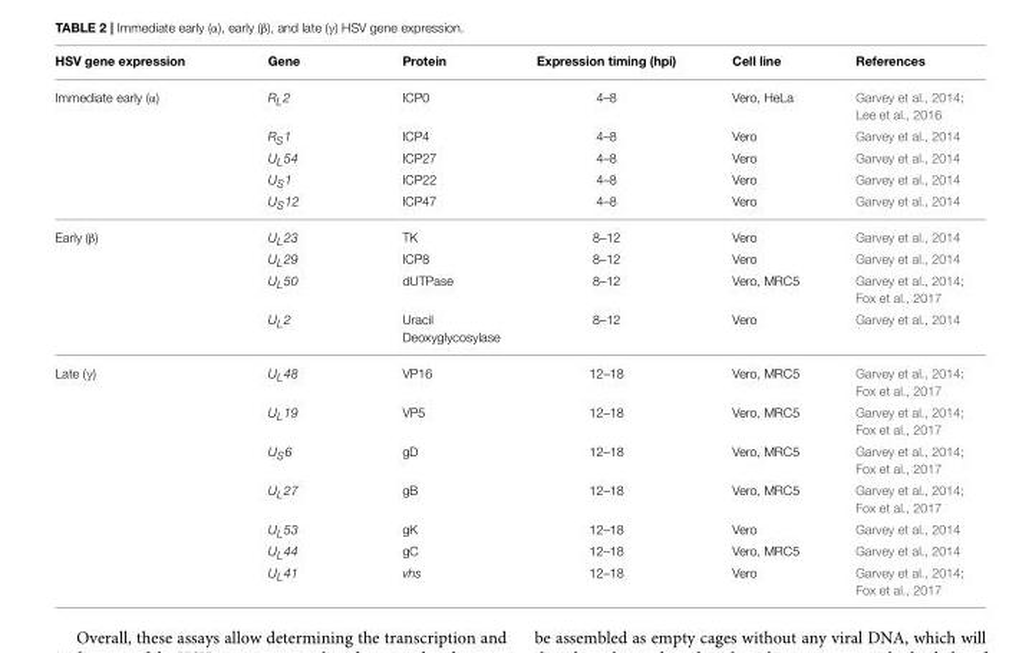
<table><thead><tr><td>HSV gene expression</td><td>Gene</td><td>Protein</td><td>Expression timing (hpi)</td><td>Cell line</td><td>References</td></tr></thead><tbody><tr><td rowspan="5">Immediate early (α)</td><td>RL2</td><td>ICP0</td><td>4–8</td><td>Vero, HeLa</td><td>Garvey et al., 2014; Lee et al., 2016</td></tr><tr><td>RS1</td><td>ICP4</td><td>4–8</td><td>Vero</td><td>Garvey et al., 2014</td></tr><tr><td>UL54</td><td>ICP27</td><td>4–8</td><td>Vero</td><td>Garvey et al., 2014</td></tr><tr><td>US1</td><td>ICP22</td><td>4–8</td><td>Vero</td><td>Garvey et al., 2014</td></tr><tr><td>US12</td><td>ICP47</td><td>4–8</td><td>Vero</td><td>Garvey et al., 2014</td></tr><tr><td rowspan="4">Early (β)</td><td>UL23</td><td>TK</td><td>8–12</td><td>Vero</td><td>Garvey et al., 2014</td></tr><tr><td>UL29</td><td>ICP8</td><td>8–12</td><td>Vero</td><td>Garvey et al., 2014</td></tr><tr><td>UL50</td><td>dUTPase</td><td>8–12</td><td>Vero, MRC5</td><td>Garvey et al., 2014; Fox et al., 2017</td></tr><tr><td>UL2</td><td>Uracil Deoxyglycosylase</td><td>8–12</td><td>Vero</td><td>Garvey et al., 2014</td></tr><tr><td rowspan="7">Late (γ)</td><td>UL48</td><td>VP16</td><td>12–18</td><td>Vero, MRC5</td><td>Garvey et al., 2014; Fox et al., 2017</td></tr><tr><td>UL19</td><td>VP5</td><td>12–18</td><td>Vero, MRC5</td><td>Garvey et al., 2014; Fox et al., 2017</td></tr><tr><td>US6</td><td>gD</td><td>12–18</td><td>Vero, MRC5</td><td>Garvey et al., 2014; Fox et al., 2017</td></tr><tr><td>UL27</td><td>gB</td><td>12–18</td><td>Vero, MRC5</td><td>Garvey et al., 2014; Fox et al., 2017</td></tr><tr><td>UL53</td><td>gK</td><td>12–18</td><td>Vero</td><td>Garvey et al., 2014</td></tr><tr><td>UL44</td><td>gC</td><td>12–18</td><td>Vero, MRC5</td><td>Garvey et al., 2014</td></tr><tr><td>UL41</td><td>vhs</td><td>12–18</td><td>Vero</td><td>Garvey et al., 2014; Fox et al., 2017</td></tr></tbody></table>